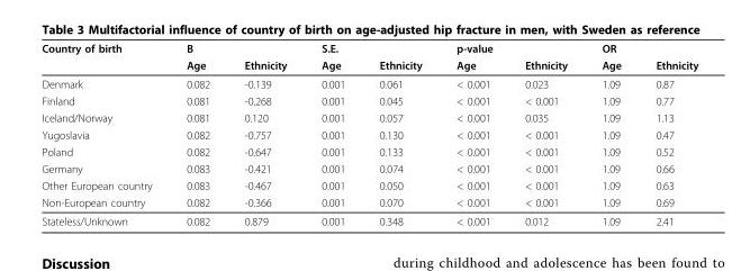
<table><thead><tr><td rowspan="2">Country of birth</td><td colspan="2">B</td><td colspan="2">S.E.</td><td colspan="2">p-value</td><td colspan="2">OR</td></tr><tr><td>Age</td><td>Ethnicity</td><td>Age</td><td>Ethnicity</td><td>Age</td><td>Ethnicity</td><td>Age</td><td>Ethnicity</td></tr></thead><tbody><tr><td>Denmark</td><td>0.082</td><td>-0.139</td><td>0.001</td><td>0.061</td><td>&lt; 0.001</td><td>0.023</td><td>1.09</td><td>0.87</td></tr><tr><td>Finland</td><td>0.081</td><td>-0.268</td><td>0.001</td><td>0.045</td><td>&lt; 0.001</td><td>&lt; 0.001</td><td>1.09</td><td>0.77</td></tr><tr><td>Iceland/Norway</td><td>0.081</td><td>0.120</td><td>0.001</td><td>0.057</td><td>&lt; 0.001</td><td>0.035</td><td>1.09</td><td>1.13</td></tr><tr><td>Yugoslavia</td><td>0.082</td><td>-0.757</td><td>0.001</td><td>0.130</td><td>&lt; 0.001</td><td>&lt; 0.001</td><td>1.09</td><td>0.47</td></tr><tr><td>Poland</td><td>0.082</td><td>-0.647</td><td>0.001</td><td>0.133</td><td>&lt; 0.001</td><td>&lt; 0.001</td><td>1.09</td><td>0.52</td></tr><tr><td>Germany</td><td>0.083</td><td>-0.421</td><td>0.001</td><td>0.074</td><td>&lt; 0.001</td><td>&lt; 0.001</td><td>1.09</td><td>0.66</td></tr><tr><td>Other European country</td><td>0.083</td><td>-0.467</td><td>0.001</td><td>0.050</td><td>&lt; 0.001</td><td>&lt; 0.001</td><td>1.09</td><td>0.63</td></tr><tr><td>Non-European country</td><td>0.082</td><td>-0.366</td><td>0.001</td><td>0.070</td><td>&lt; 0.001</td><td>&lt; 0.001</td><td>1.09</td><td>0.69</td></tr><tr><td>Stateless/Unknown</td><td>0.082</td><td>0.879</td><td>0.001</td><td>0.348</td><td>&lt; 0.001</td><td>0.012</td><td>1.09</td><td>2.41</td></tr></tbody></table>